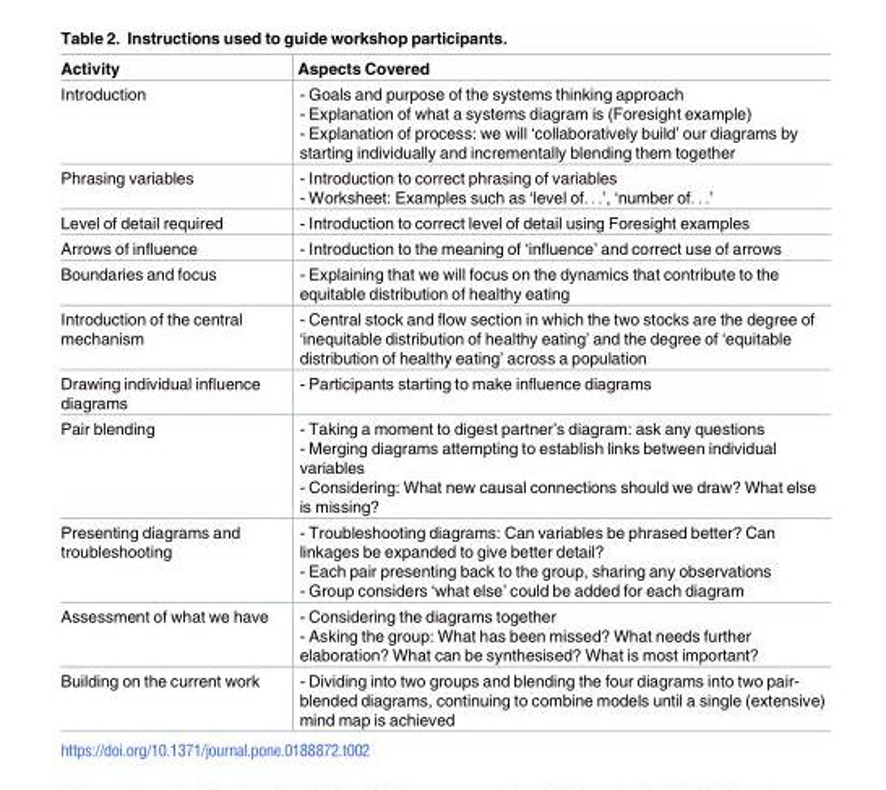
<table><thead><tr><td>Activity</td><td>Aspects Covered</td></tr></thead><tbody><tr><td>Introduction</td><td>- Goals and purpose of the systems thinking approach - Explanation of what a systems diagram is (Foresight example) - Explanation of process: we will ‘collaboratively build’ our diagrams by starting individually and incrementally blending them together</td></tr><tr><td>Phrasing variables</td><td>- Introduction to correct phrasing of variables - Worksheet: Examples such as ‘level of. . .’, ‘number of. . .’</td></tr><tr><td>Level of detail required</td><td>- Introduction to correct level of detail using Foresight examples</td></tr><tr><td>Arrows of influence</td><td>- Introduction to the meaning of ‘influence’ and correct use of arrows</td></tr><tr><td>Boundaries and focus</td><td>- Explaining that we will focus on the dynamics that contribute to the equitable distribution of healthy eating</td></tr><tr><td>Introduction of the central mechanism</td><td>- Central stock and flow section in which the two stocks are the degree of ‘inequitable distribution of healthy eating’ and the degree of ‘equitable distribution of healthy eating’ across a population</td></tr><tr><td>Drawing individual influence diagrams</td><td>- Participants starting to make influence diagrams</td></tr><tr><td>Pair blending</td><td>- Taking a moment to digest partner’s diagram: ask any questions - Merging diagrams attempting to establish links between individual variables - Considering: What new causal connections should we draw? What else is missing?</td></tr><tr><td>Presenting diagrams and troubleshooting</td><td>- Troubleshooting diagrams: Can variables be phrased better? Can linkages be expanded to give better detail? - Each pair presenting back to the group, sharing any observations - Group considers ‘what else’ could be added for each diagram</td></tr><tr><td>Assessment of what we have</td><td>- Considering the diagrams together - Asking the group: What has been missed? What needs further elaboration? What can be synthesised? What is most important?</td></tr><tr><td>Building on the current work</td><td>- Dividing into two groups and blending the four diagrams into two pair- blended diagrams, continuing to combine models until a single (extensive) mind map is achieved</td></tr></tbody></table>